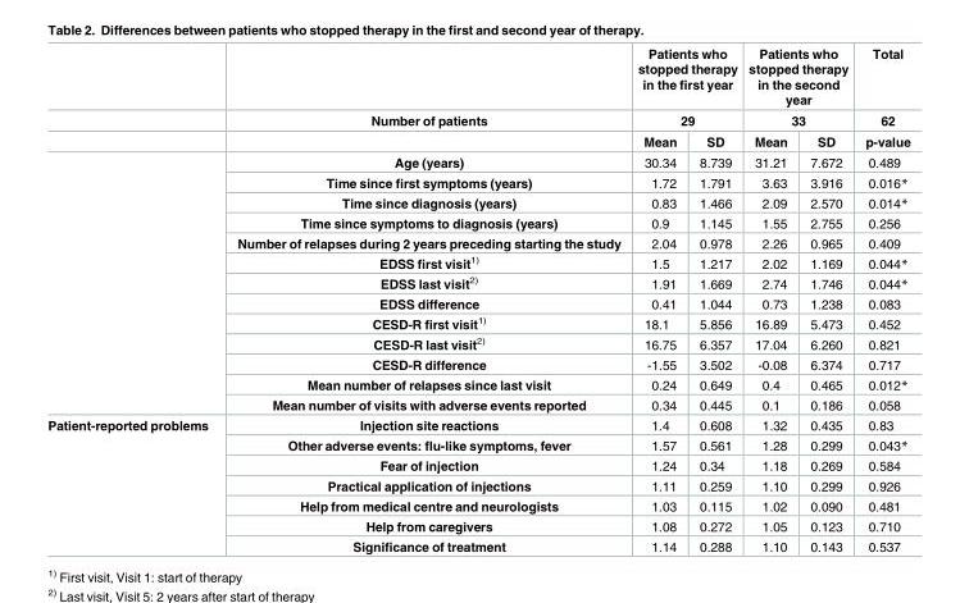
<table><thead><tr><td rowspan="3"></td><td rowspan="3">Number of patients</td><td rowspan="2" colspan="2">Patients who stopped therapy in the first year 29</td><td rowspan="2" colspan="2">Patients who stopped therapy in the second year 33</td><td rowspan="3">Total 62 p-value</td></tr><tr></tr><tr><td>Mean</td><td>SD</td><td>Mean</td><td>SD</td></tr></thead><tbody><tr><td rowspan="13"></td><td>Age (years)</td><td>30.34</td><td>8.739</td><td>31.21</td><td>7.672</td><td>0.489</td></tr><tr><td>Time since first symptoms (years)</td><td>1.72</td><td>1.791</td><td>3.63</td><td>3.916</td><td>0.016*</td></tr><tr><td>Time since diagnosis (years)</td><td>0.83</td><td>1.466</td><td>2.09</td><td>2.570</td><td>0.014*</td></tr><tr><td>Time since symptoms to diagnosis (years)</td><td>0.9</td><td>1.145</td><td>1.55</td><td>2.755</td><td>0.256</td></tr><tr><td>Number of relapses during 2 years preceding starting the study</td><td>2.04</td><td>0.978</td><td>2.26</td><td>0.965</td><td>0.409</td></tr><tr><td>EDSS first visit<sup>1)</sup></td><td>1.5</td><td>1.217</td><td>2.02</td><td>1.169</td><td>0.044*</td></tr><tr><td>EDSS last visit<sup>2)</sup></td><td>1.91</td><td>1.669</td><td>2.74</td><td>1.746</td><td>0.044*</td></tr><tr><td>EDSS difference</td><td>0.41</td><td>1.044</td><td>0.73</td><td>1.238</td><td>0.083</td></tr><tr><td>CESD-R first visit<sup>1)</sup></td><td>18.1</td><td>5.856</td><td>16.89</td><td>5.473</td><td>0.452</td></tr><tr><td>CESD-R last visit<sup>2)</sup></td><td>16.75</td><td>6.357</td><td>17.04</td><td>6.260</td><td>0.821</td></tr><tr><td>CESD-R difference</td><td>-1.55</td><td>3.502</td><td>-0.08</td><td>6.374</td><td>0.717</td></tr><tr><td>Mean number of relapses since last visit</td><td>0.24</td><td>0.649</td><td>0.4</td><td>0.465</td><td>0.012*</td></tr><tr><td>Mean number of visits with adverse events reported</td><td>0.34</td><td>0.445</td><td>0.1</td><td>0.186</td><td>0.058</td></tr><tr><td rowspan="7">Patient-reported problems</td><td>Injection site reactions</td><td>1.4</td><td>0.608</td><td>1.32</td><td>0.435</td><td>0.83</td></tr><tr><td>Other adverse events: flu-like symptoms, fever</td><td>1.57</td><td>0.561</td><td>1.28</td><td>0.299</td><td>0.043*</td></tr><tr><td>Fear of injection</td><td>1.24</td><td>0.34</td><td>1.18</td><td>0.269</td><td>0.584</td></tr><tr><td>Practical application of injections</td><td>1.11</td><td>0.259</td><td>1.10</td><td>0.299</td><td>0.926</td></tr><tr><td>Help from medical centre and neurologists</td><td>1.03</td><td>0.115</td><td>1.02</td><td>0.090</td><td>0.481</td></tr><tr><td>Help from caregivers</td><td>1.08</td><td>0.272</td><td>1.05</td><td>0.123</td><td>0.710</td></tr><tr><td>Significance of treatment</td><td>1.14</td><td>0.288</td><td>1.10</td><td>0.143</td><td>0.537</td></tr></tbody></table>